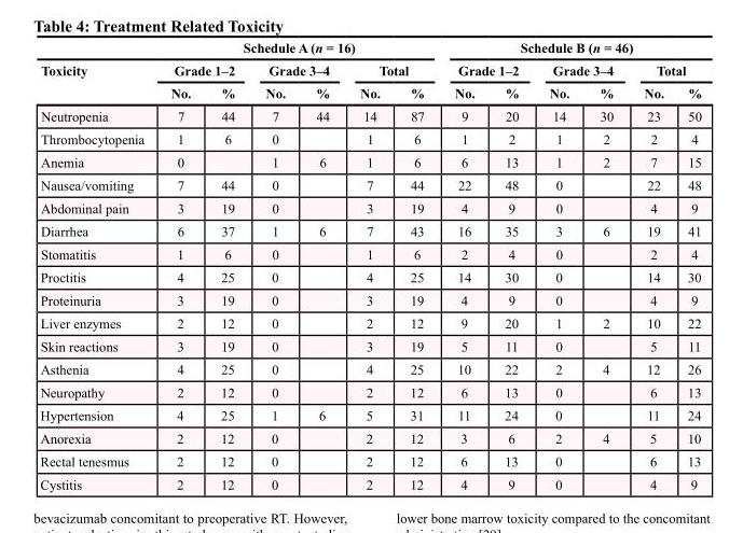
<table><thead><tr><td rowspan="3">Toxicity</td><td colspan="6">Schedule A (n = 16)</td><td colspan="6">Schedule B (n = 46)</td></tr><tr><td colspan="2">Grade 1–2</td><td colspan="2">Grade 3–4</td><td colspan="2">Total</td><td colspan="2">Grade 1–2</td><td colspan="2">Grade 3–4</td><td colspan="2">Total</td></tr><tr><td>No.</td><td>%</td><td>No.</td><td>%</td><td>No.</td><td>%</td><td>No.</td><td>%</td><td>No.</td><td>%</td><td>No.</td><td>%</td></tr></thead><tbody><tr><td>Neutropenia</td><td>7</td><td>44</td><td>7</td><td>44</td><td>14</td><td>87</td><td>9</td><td>20</td><td>14</td><td>30</td><td>23</td><td>50</td></tr><tr><td>Thrombocytopenia</td><td>1</td><td>6</td><td>0</td><td></td><td>1</td><td>6</td><td>1</td><td>2</td><td>1</td><td>2</td><td>2</td><td>4</td></tr><tr><td>Anemia</td><td>0</td><td></td><td>1</td><td>6</td><td>1</td><td>6</td><td>6</td><td>13</td><td>1</td><td>2</td><td>7</td><td>15</td></tr><tr><td>Nausea/vomiting</td><td>7</td><td>44</td><td>0</td><td></td><td>7</td><td>44</td><td>22</td><td>48</td><td>0</td><td></td><td>22</td><td>48</td></tr><tr><td>Abdominal pain</td><td>3</td><td>19</td><td>0</td><td></td><td>3</td><td>19</td><td>4</td><td>9</td><td>0</td><td></td><td>4</td><td>9</td></tr><tr><td>Diarrhea</td><td>6</td><td>37</td><td>1</td><td>6</td><td>7</td><td>43</td><td>16</td><td>35</td><td>3</td><td>6</td><td>19</td><td>41</td></tr><tr><td>Stomatitis</td><td>1</td><td>6</td><td>0</td><td></td><td>1</td><td>6</td><td>2</td><td>4</td><td>0</td><td></td><td>2</td><td>4</td></tr><tr><td>Proctitis</td><td>4</td><td>25</td><td>0</td><td></td><td>4</td><td>25</td><td>14</td><td>30</td><td>0</td><td></td><td>14</td><td>30</td></tr><tr><td>Proteinuria</td><td>3</td><td>19</td><td>0</td><td></td><td>3</td><td>19</td><td>4</td><td>9</td><td>0</td><td></td><td>4</td><td>9</td></tr><tr><td>Liver enzymes</td><td>2</td><td>12</td><td>0</td><td></td><td>2</td><td>12</td><td>9</td><td>20</td><td>1</td><td>2</td><td>10</td><td>22</td></tr><tr><td>Skin reactions</td><td>3</td><td>19</td><td>0</td><td></td><td>3</td><td>19</td><td>5</td><td>11</td><td>0</td><td></td><td>5</td><td>11</td></tr><tr><td>Asthenia</td><td>4</td><td>25</td><td>0</td><td></td><td>4</td><td>25</td><td>10</td><td>22</td><td>2</td><td>4</td><td>12</td><td>26</td></tr><tr><td>Neuropathy</td><td>2</td><td>12</td><td>0</td><td></td><td>2</td><td>12</td><td>6</td><td>13</td><td>0</td><td></td><td>6</td><td>13</td></tr><tr><td>Hypertension</td><td>4</td><td>25</td><td>1</td><td>6</td><td>5</td><td>31</td><td>11</td><td>24</td><td>0</td><td></td><td>11</td><td>24</td></tr><tr><td>Anorexia</td><td>2</td><td>12</td><td>0</td><td></td><td>2</td><td>12</td><td>3</td><td>6</td><td>2</td><td>4</td><td>5</td><td>10</td></tr><tr><td>Rectal tenesmus</td><td>2</td><td>12</td><td>0</td><td></td><td>2</td><td>12</td><td>6</td><td>13</td><td>0</td><td></td><td>6</td><td>13</td></tr><tr><td>Cystitis</td><td>2</td><td>12</td><td>0</td><td></td><td>2</td><td>12</td><td>4</td><td>9</td><td>0</td><td></td><td>4</td><td>9</td></tr></tbody></table>